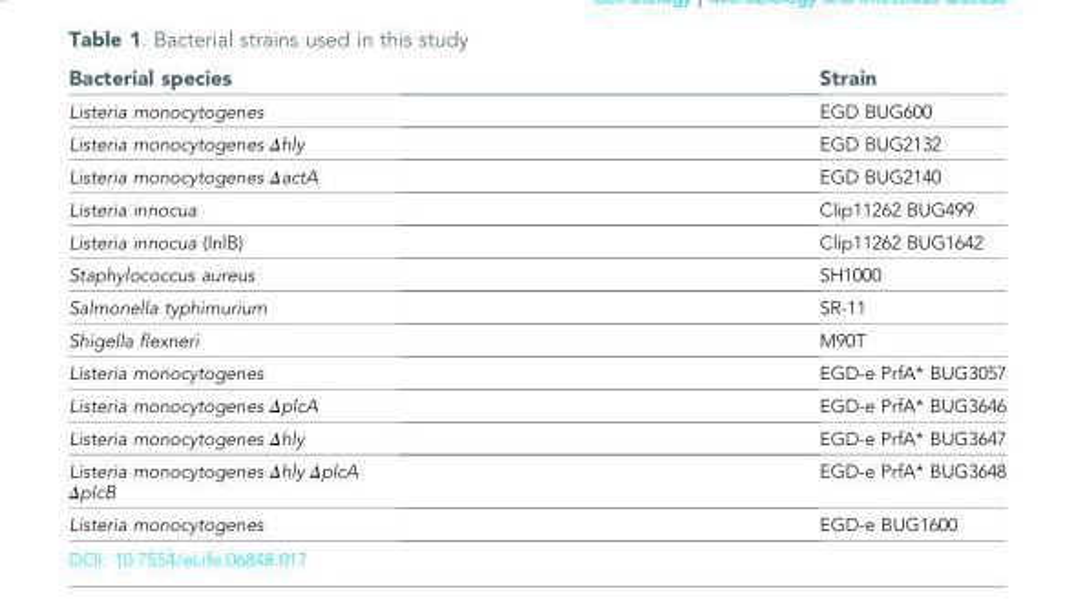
<table><thead><tr><td>Bacterial species</td><td>Strain</td></tr></thead><tbody><tr><td>Listeria monocytogenes</td><td>EGD BUG600</td></tr><tr><td>Listeria monocytogenes Δhly</td><td>EGD BUG2132</td></tr><tr><td>Listeria monocytogenes ΔactA</td><td>EGD BUG2140</td></tr><tr><td>Listeria innocua</td><td>Clip11262 BUG499</td></tr><tr><td>Listeria innocua (InlB)</td><td>Clip11262 BUG1642</td></tr><tr><td>Staphylococcus aureus</td><td>SH1000</td></tr><tr><td>Salmonella typhimurium</td><td>SR-11</td></tr><tr><td>Shigella flexneri</td><td>M90T</td></tr><tr><td>Listeria monocytogenes</td><td>EGD-e PrfA* BUG3057</td></tr><tr><td>Listeria monocytogenes ΔplcA</td><td>EGD-e PrfA* BUG3646</td></tr><tr><td>Listeria monocytogenes Δhly</td><td>EGD-e PrfA* BUG3647</td></tr><tr><td>Listeria monocytogenes Δhly ΔplcA ΔplcB</td><td>EGD-e PrfA* BUG3648</td></tr><tr><td>Listeria monocytogenes</td><td>EGD-e BUG1600</td></tr></tbody></table>